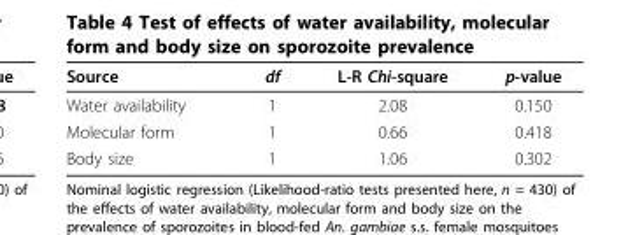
<table><thead><tr><td>Source</td><td>df</td><td>L-R Chi-square</td><td>p-value</td></tr></thead><tbody><tr><td>Water availability</td><td>1</td><td>2.08</td><td>0.150</td></tr><tr><td>Molecular form</td><td>1</td><td>0.66</td><td>0.418</td></tr><tr><td>Body size</td><td>1</td><td>1.06</td><td>0.302</td></tr></tbody></table>